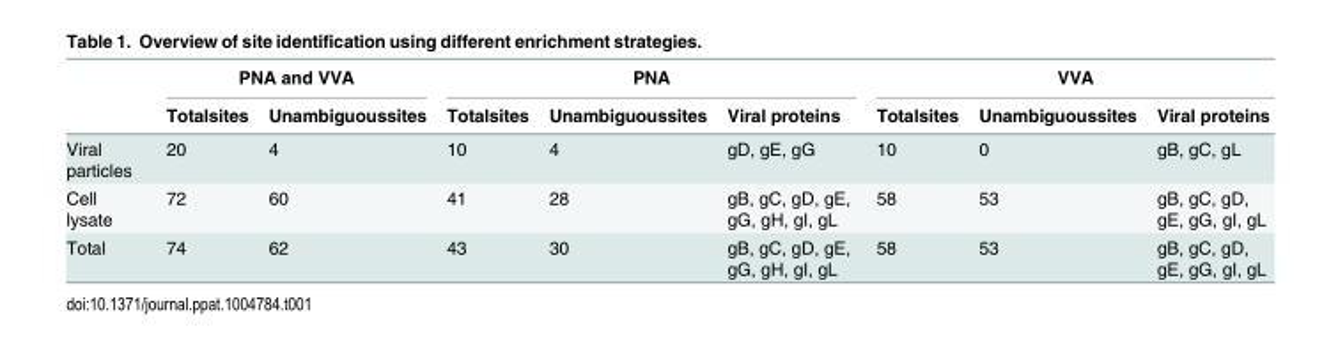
<table><thead><tr><td rowspan="2"></td><td colspan="2">PNA and VVA</td><td colspan="3">PNA</td><td colspan="3">VVA</td></tr><tr><td>Totalsites</td><td>Unambiguoussites</td><td>Totalsites</td><td>Unambiguoussites</td><td>Viral proteins</td><td>Totalsites</td><td>Unambiguoussites</td><td>Viral proteins</td></tr></thead><tbody><tr><td>Viral particles</td><td>20</td><td>4</td><td>10</td><td>4</td><td>gD, gE, gG</td><td>10</td><td>0</td><td>gB, gC, gL</td></tr><tr><td>Cell lysate</td><td>72</td><td>60</td><td>41</td><td>28</td><td>gB, gC, gD, gE, gG, gH, gI, gL</td><td>58</td><td>53</td><td>gB, gC, gD, gE, gG, gI, gL</td></tr><tr><td>Total</td><td>74</td><td>62</td><td>43</td><td>30</td><td>gB, gC, gD, gE, gG, gH, gI, gL</td><td>58</td><td>53</td><td>gB, gC, gD, gE, gG, gI, gL</td></tr></tbody></table>